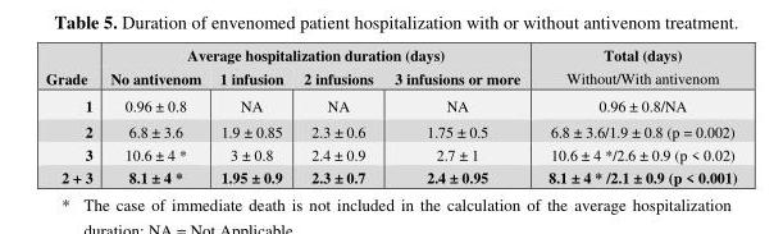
<table><thead><tr><td rowspan="2">Grade</td><td colspan="4">Average hospitalization duration (days)</td><td rowspan="2">Total (days) Without/With antivenom</td></tr><tr><td>No antivenom</td><td>1 infusion</td><td>2 infusions</td><td>3 infusions or more</td></tr></thead><tbody><tr><td>1</td><td>0.96 ± 0.8</td><td>NA</td><td>NA</td><td>NA</td><td>0.96 ± 0.8/NA</td></tr><tr><td>2</td><td>6.8 ± 3.6</td><td>1.9 ± 0.85</td><td>2.3 ± 0.6</td><td>1.75 ± 0.5</td><td>6.8 ± 3.6/1.9 ± 0.8 (p = 0.002)</td></tr><tr><td>3</td><td>10.6 ± 4 *</td><td>3 ± 0.8</td><td>2.4 ± 0.9</td><td>2.7 ± 1</td><td>10.6 ± 4 */2.6 ± 0.9 (p &lt; 0.02)</td></tr><tr><td>2 + 3</td><td>8.1 ± 4 *</td><td>1.95 ± 0.9</td><td>2.3 ± 0.7</td><td>2.4 ± 0.95</td><td>8.1 ± 4 * /2.1 ± 0.9 (p &lt; 0.001)</td></tr></tbody></table>